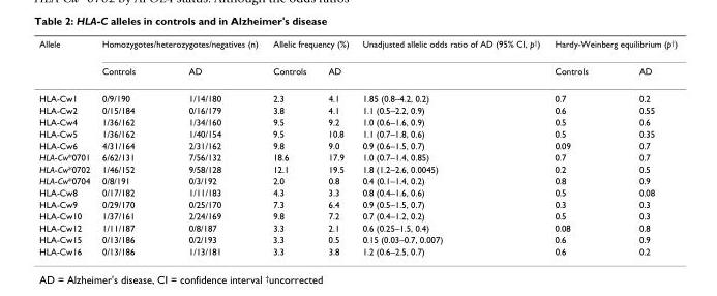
<table><thead><tr><td rowspan="2">Allele</td><td colspan="2">Homozygotes/heterozygotes/negatives (n)</td><td colspan="2">Allelic frequency (%)</td><td rowspan="2">Unadjusted allelic odds ratio of AD (95% CI, p<sup>†</sup>)</td><td colspan="2">Hardy-Weinberg equilibrium (p<sup>†</sup>)</td></tr><tr><td>Controls</td><td>AD</td><td>Controls</td><td>AD</td><td>Controls</td><td>AD</td></tr></thead><tbody><tr><td>HLA-Cw1</td><td>0/9/190</td><td>1/14/180</td><td>2.3</td><td>4.1</td><td>1.85 (0.8–4.2, 0.2)</td><td>0.7</td><td>0.2</td></tr><tr><td>HLA-Cw2</td><td>0/15/184</td><td>0/16/179</td><td>3.8</td><td>4.1</td><td>1.1 (0.5–2.2, 0.9)</td><td>0.6</td><td>0.55</td></tr><tr><td>HLA-Cw4</td><td>1/36/162</td><td>1/34/160</td><td>9.5</td><td>9.2</td><td>1.0 (0.6–1.6, 0.9)</td><td>0.5</td><td>0.6</td></tr><tr><td>HLA-Cw5</td><td>1/36/162</td><td>1/40/154</td><td>9.5</td><td>10.8</td><td>1.1 (0.7–1.8, 0.6)</td><td>0.5</td><td>0.35</td></tr><tr><td>HLA-Cw6</td><td>4/31/164</td><td>2/31/162</td><td>9.8</td><td>9.0</td><td>0.9 (0.6–1.5, 0.7)</td><td>0.09</td><td>0.7</td></tr><tr><td>HLA-Cw*0701</td><td>6/62/131</td><td>7/56/132</td><td>18.6</td><td>17.9</td><td>1.0 (0.7–1.4, 0.85)</td><td>0.7</td><td>0.7</td></tr><tr><td>HLA-Cw*0702</td><td>1/46/152</td><td>9/58/128</td><td>12.1</td><td>19.5</td><td>1.8 (1.2–2.6, 0.0045)</td><td>0.2</td><td>0.5</td></tr><tr><td>HLA-Cw*0704</td><td>0/8/191</td><td>0/3/192</td><td>2.0</td><td>0.8</td><td>0.4 (0.1–1.4, 0.2)</td><td>0.8</td><td>0.9</td></tr><tr><td>HLA-Cw8</td><td>0/17/182</td><td>1/11/183</td><td>4.3</td><td>3.3</td><td>0.8 (0.4–1.6, 0.6)</td><td>0.5</td><td>0.08</td></tr><tr><td>HLA-Cw9</td><td>0/29/170</td><td>0/25/170</td><td>7.3</td><td>6.4</td><td>0.9 (0.5–1.5, 0.7)</td><td>0.3</td><td>0.3</td></tr><tr><td>HLA-Cw10</td><td>1/37/161</td><td>2/24/169</td><td>9.8</td><td>7.2</td><td>0.7 (0.4–1.2, 0.2)</td><td>0.5</td><td>0.3</td></tr><tr><td>HLA-Cw12</td><td>1/11/187</td><td>0/8/187</td><td>3.3</td><td>2.1</td><td>0.6 (0.25–1.5, 0.4)</td><td>0.08</td><td>0.8</td></tr><tr><td>HLA-Cw15</td><td>0/13/186</td><td>0/2/193</td><td>3.3</td><td>0.5</td><td>0.15 (0.03–0.7, 0.007)</td><td>0.6</td><td>0.9</td></tr><tr><td>HLA-Cw16</td><td>0/13/186</td><td>1/13/181</td><td>3.3</td><td>3.8</td><td>1.2 (0.6–2.5, 0.7)</td><td>0.6</td><td>0.2</td></tr></tbody></table>